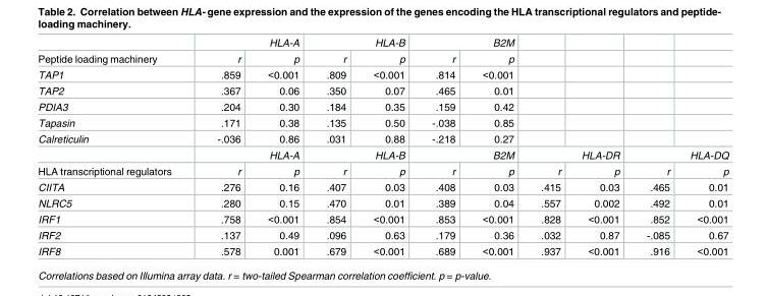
<table><thead><tr><td rowspan="2">Peptide loading machinery</td><td colspan="2">HLA-A</td><td colspan="2">HLA-B</td><td colspan="2">B2M</td><td rowspan="2"></td><td rowspan="2"></td><td rowspan="2"></td><td rowspan="2"></td></tr><tr><td>r</td><td>p</td><td>r</td><td>p</td><td>r</td><td>p</td></tr></thead><tbody><tr><td>TAP1</td><td>.859</td><td>&lt;0.001</td><td>.809</td><td>&lt;0.001</td><td>.814</td><td>&lt;0.001</td><td></td><td></td><td></td><td></td></tr><tr><td>TAP2</td><td>.367</td><td>0.06</td><td>.350</td><td>0.07</td><td>.465</td><td>0.01</td><td></td><td></td><td></td><td></td></tr><tr><td>PDIA3</td><td>.204</td><td>0.30</td><td>.184</td><td>0.35</td><td>.159</td><td>0.42</td><td></td><td></td><td></td><td></td></tr><tr><td>Tapasin</td><td>.171</td><td>0.38</td><td>.135</td><td>0.50</td><td>-.038</td><td>0.85</td><td></td><td></td><td></td><td></td></tr><tr><td rowspan="2">Calreticulin</td><td>-.036</td><td>0.86</td><td>.031</td><td>0.88</td><td>-.218</td><td>0.27</td><td></td><td></td><td></td><td></td></tr><tr><td colspan="2">HLA-A</td><td colspan="2">HLA-B</td><td colspan="2">B2M</td><td colspan="2">HLA-DR</td><td colspan="2">HLA-DQ</td></tr><tr><td>HLA transcriptional regulators</td><td>r</td><td>p</td><td>r</td><td>p</td><td>r</td><td>p</td><td>r</td><td>p</td><td>r</td><td>p</td></tr><tr><td>CIITA</td><td>.276</td><td>0.16</td><td>.407</td><td>0.03</td><td>.408</td><td>0.03</td><td>.415</td><td>0.03</td><td>.465</td><td>0.01</td></tr><tr><td>NLRC5</td><td>.280</td><td>0.15</td><td>.470</td><td>0.01</td><td>.389</td><td>0.04</td><td>.557</td><td>0.002</td><td>.492</td><td>0.01</td></tr><tr><td>IRF1</td><td>.758</td><td>&lt;0.001</td><td>.854</td><td>&lt;0.001</td><td>.853</td><td>&lt;0.001</td><td>.828</td><td>&lt;0.001</td><td>.852</td><td>&lt;0.001</td></tr><tr><td>IRF2</td><td>.137</td><td>0.49</td><td>.096</td><td>0.63</td><td>.179</td><td>0.36</td><td>.032</td><td>0.87</td><td>-.085</td><td>0.67</td></tr><tr><td>IRF8</td><td>.578</td><td>0.001</td><td>.679</td><td>&lt;0.001</td><td>.689</td><td>&lt;0.001</td><td>.937</td><td>&lt;0.001</td><td>.916</td><td>&lt;0.001</td></tr></tbody></table>